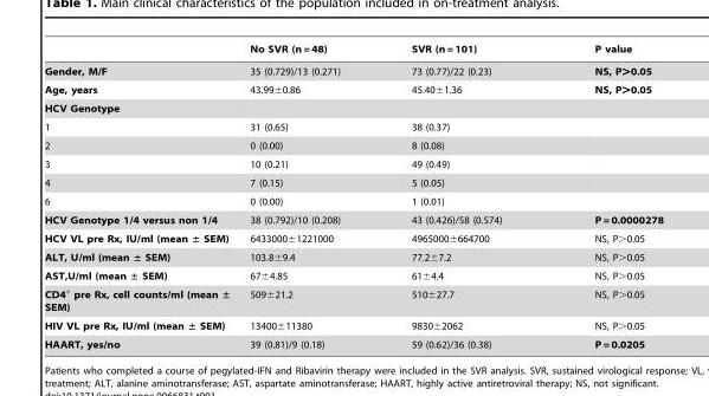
<table><thead><tr><td></td><td>No SVR (n = 48)</td><td>SVR (n = 101)</td><td>P value</td></tr></thead><tbody><tr><td>Gender, M/F</td><td>35 (0.729)/13 (0.271)</td><td>73 (0.77)/22 (0.23)</td><td>NS, P&gt;0.05</td></tr><tr><td>Age, years</td><td>43.99±0.86</td><td>45.40±1.36</td><td>NS, P&gt;0.05</td></tr><tr><td colspan="4">HCV Genotype</td></tr><tr><td>1</td><td>31 (0.65)</td><td>38 (0.37)</td><td></td></tr><tr><td>2</td><td>0 (0.00)</td><td>8 (0.08)</td><td></td></tr><tr><td>3</td><td>10 (0.21)</td><td>49 (0.49)</td><td></td></tr><tr><td>4</td><td>7 (0.15)</td><td>5 (0.05)</td><td></td></tr><tr><td>6</td><td>0 (0.00)</td><td>1 (0.01)</td><td></td></tr><tr><td>HCV Genotype 1/4 versus non 1/4</td><td>38 (0.792)/10 (0.208)</td><td>43 (0.426)/58 (0.574)</td><td>P = 0.0000278</td></tr><tr><td>HCV VL pre Rx, IU/ml (mean ± SEM)</td><td>6433000±1221000</td><td>4965000±664700</td><td>NS, P&gt;0.05</td></tr><tr><td>ALT, U/ml (mean ± SEM)</td><td>103.8±9.4</td><td>77.2±7.2</td><td>NS, P&gt;0.05</td></tr><tr><td>AST,U/ml (mean ± SEM)</td><td>67±4.85</td><td>61±4.4</td><td>NS, P&gt;0.05</td></tr><tr><td>CD4<sup>+</sup> pre Rx, cell counts/ml (mean ± SEM)</td><td>509±21.2</td><td>510±27.7</td><td>NS, P&gt;0.05</td></tr><tr><td>HIV VL pre Rx, IU/ml (mean ± SEM)</td><td>13400±11380</td><td>9830±2062</td><td>NS, P&gt;0.05</td></tr><tr><td>HAART, yes/no</td><td>39 (0.81)/9 (0.18)</td><td>59 (0.62)/36 (0.38)</td><td>P = 0.0205</td></tr></tbody></table>